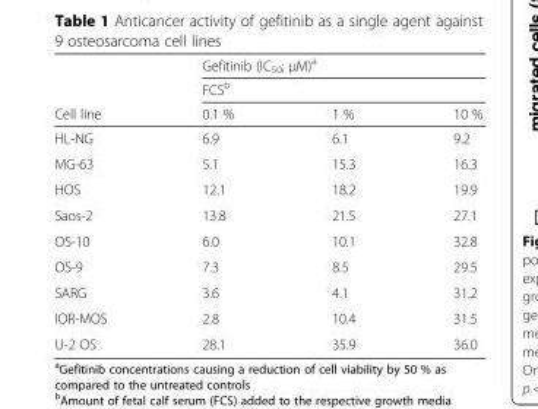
<table><thead><tr><td rowspan="3">Cell line</td><td rowspan="2" colspan="3">Gefitinib (IC<sub>50</sub>; μM)<sup>a</sup> FCS<sup>b</sup></td></tr><tr></tr><tr><td>0.1 %</td><td>1 %</td><td>10 %</td></tr></thead><tbody><tr><td>HL-NG</td><td>6.9</td><td>6.1</td><td>9.2</td></tr><tr><td>MG-63</td><td>5.1</td><td>15.3</td><td>16.3</td></tr><tr><td>HOS</td><td>12.1</td><td>18.2</td><td>19.9</td></tr><tr><td>Saos-2</td><td>13.8</td><td>21.5</td><td>27.1</td></tr><tr><td>OS-10</td><td>6.0</td><td>10.1</td><td>32.8</td></tr><tr><td>OS-9</td><td>7.3</td><td>8.5</td><td>29.5</td></tr><tr><td>SARG</td><td>3.6</td><td>4.1</td><td>31.2</td></tr><tr><td>IOR-MOS</td><td>2.8</td><td>10.4</td><td>31.5</td></tr><tr><td>U-2 OS</td><td>28.1</td><td>35.9</td><td>36.0</td></tr></tbody></table>